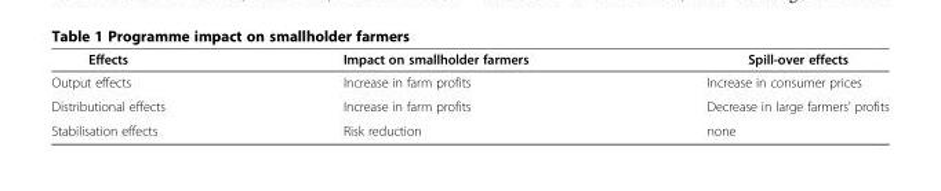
<table><thead><tr><td>Effects</td><td>Impact on smallholder farmers</td><td>Spill-over effects</td></tr></thead><tbody><tr><td>Output effects</td><td>Increase in farm profits</td><td>Increase in consumer prices</td></tr><tr><td>Distributional effects</td><td>Increase in farm profits</td><td>Decrease in large farmers’ profits</td></tr><tr><td>Stabilisation effects</td><td>Risk reduction</td><td>none</td></tr></tbody></table>